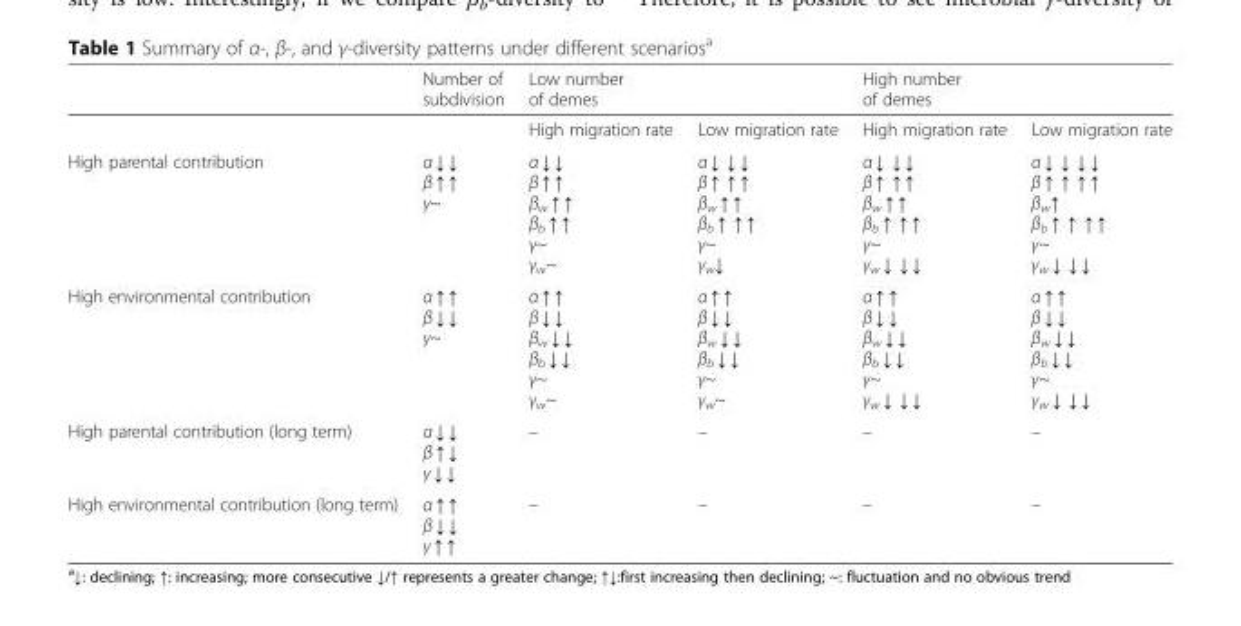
<table><thead><tr><td rowspan="2"></td><td rowspan="2">Number of subdivision</td><td colspan="2">Low number of demes</td><td colspan="2">High number of demes</td></tr><tr><td>High migration rate</td><td>Low migration rate</td><td>High migration rate</td><td>Low migration rate</td></tr></thead><tbody><tr><td>High parental contribution</td><td>α ↓ ↓ β ↑ ↑ γ~</td><td>α ↓ ↓ β ↑ ↑ β<sub>w</sub> ↑ ↑ β<sub>b</sub> ↑ ↑ γ~ γ<sub>w</sub>~</td><td>α ↓ ↓ ↓ β ↑ ↑ ↑ β<sub>w</sub> ↑ ↑ β<sub>b</sub> ↑ ↑ ↑ γ~ γ<sub>w</sub>↓</td><td>α ↓ ↓ ↓ β ↑ ↑ ↑ β<sub>w</sub> ↑ ↑ β<sub>b</sub> ↑ ↑ ↑ γ~ γ<sub>w</sub> ↓ ↓ ↓</td><td>α ↓ ↓ ↓ ↓ β ↑ ↑ ↑ ↑ β<sub>w</sub>↑ β<sub>b</sub> ↑ ↑ ↑ ↑ γ~ γ<sub>w</sub> ↓ ↓ ↓</td></tr><tr><td>High environmental contribution</td><td>α ↑ ↑ β ↓ ↓ γ~</td><td>α ↑ ↑ β ↓ ↓ β<sub>w</sub> ↓ ↓ β<sub>b</sub> ↓ ↓ γ~ γ<sub>w</sub>~</td><td>α ↑ ↑ β ↓ ↓ β<sub>w</sub> ↓ ↓ β<sub>b</sub> ↓ ↓ γ~ γ<sub>w</sub>~</td><td>α ↑ ↑ β ↓ ↓ β<sub>w</sub> ↓ ↓ β<sub>b</sub> ↓ ↓ γ~ γ<sub>w</sub> ↓ ↓ ↓</td><td>α ↑ ↑ β ↓ ↓ β<sub>w</sub> ↓ ↓ β<sub>b</sub> ↓ ↓ γ~ γ<sub>w</sub> ↓ ↓ ↓</td></tr><tr><td>High parental contribution (long term)</td><td>α ↓ ↓ β ↑ ↓ γ ↓ ↓</td><td>–</td><td>–</td><td>–</td><td>–</td></tr><tr><td>High environmental contribution (long term)</td><td>α ↑ ↑ β ↓ ↓ γ ↑ ↑</td><td>–</td><td>–</td><td>–</td><td>–</td></tr></tbody></table>